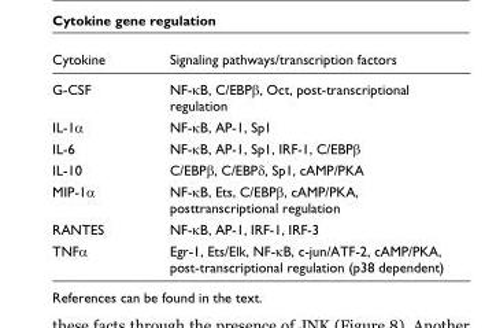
<table><thead><tr><td>Cytokine</td><td>Signaling pathways/transcription factors</td></tr></thead><tbody><tr><td>G-CSF</td><td>NF-κB, C/EBPβ, Oct, post-transcriptional regulation</td></tr><tr><td>IL-1α</td><td>NF-κB, AP-1, Sp1</td></tr><tr><td>IL-6</td><td>NF-κB, AP-1, Sp1, IRF-1, C/EBPβ</td></tr><tr><td>IL-10</td><td>C/EBPβ, C/EBPδ, Sp1, cAMP/PKA</td></tr><tr><td>MIP-1α</td><td>NF-κB, Ets, C/EBPβ, cAMP/PKA, posttranscriptional regulation</td></tr><tr><td>RANTES</td><td>NF-κB, AP-1, IRF-1, IRF-3</td></tr><tr><td>TNFα</td><td>Egr-1, Ets/Elk, NF-κB, c-jun/ATF-2, cAMP/PKA, post-transcriptional regulation (p38 dependent)</td></tr></tbody></table>